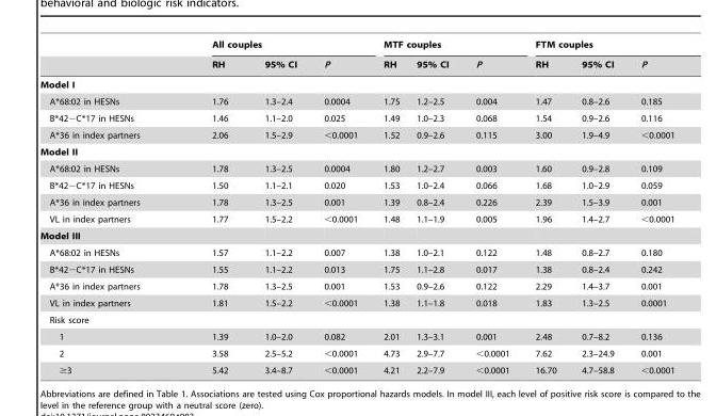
<table><thead><tr><td rowspan="2"></td><td colspan="3">All couples</td><td colspan="3">MTF couples</td><td colspan="3">FTM couples</td></tr><tr><td>RH</td><td>95% CI</td><td>P</td><td>RH</td><td>95% CI</td><td>P</td><td>RH</td><td>95% CI</td><td>P</td></tr></thead><tbody><tr><td colspan="10">Model I</td></tr><tr><td>A*68:02 in HESNs</td><td>1.76</td><td>1.3–2.4</td><td>0.0004</td><td>1.75</td><td>1.2–2.5</td><td>0.004</td><td>1.47</td><td>0.8–2.6</td><td>0.185</td></tr><tr><td>B*42−C*17 in HESNs</td><td>1.46</td><td>1.1–2.0</td><td>0.025</td><td>1.49</td><td>1.0–2.3</td><td>0.068</td><td>1.54</td><td>0.9–2.6</td><td>0.116</td></tr><tr><td>A*36 in index partners</td><td>2.06</td><td>1.5–2.9</td><td>&lt;0.0001</td><td>1.52</td><td>0.9–2.6</td><td>0.115</td><td>3.00</td><td>1.9–4.9</td><td>&lt;0.0001</td></tr><tr><td colspan="10">Model II</td></tr><tr><td>A*68:02 in HESNs</td><td>1.78</td><td>1.3–2.5</td><td>0.0004</td><td>1.80</td><td>1.2–2.7</td><td>0.003</td><td>1.60</td><td>0.9–2.8</td><td>0.109</td></tr><tr><td>B*42−C*17 in HESNs</td><td>1.50</td><td>1.1–2.1</td><td>0.020</td><td>1.53</td><td>1.0–2.4</td><td>0.066</td><td>1.68</td><td>1.0–2.9</td><td>0.059</td></tr><tr><td>A*36 in index partners</td><td>1.78</td><td>1.3–2.5</td><td>0.001</td><td>1.39</td><td>0.8–2.4</td><td>0.226</td><td>2.39</td><td>1.5–3.9</td><td>0.001</td></tr><tr><td>VL in index partners</td><td>1.77</td><td>1.5–2.2</td><td>&lt;0.0001</td><td>1.48</td><td>1.1–1.9</td><td>0.005</td><td>1.96</td><td>1.4–2.7</td><td>&lt;0.0001</td></tr><tr><td colspan="10">Model III</td></tr><tr><td>A*68:02 in HESNs</td><td>1.57</td><td>1.1–2.2</td><td>0.007</td><td>1.38</td><td>1.0–2.1</td><td>0.122</td><td>1.48</td><td>0.8–2.7</td><td>0.180</td></tr><tr><td>B*42−C*17 in HESNs</td><td>1.55</td><td>1.1–2.2</td><td>0.013</td><td>1.75</td><td>1.1–2.8</td><td>0.017</td><td>1.38</td><td>0.8–2.4</td><td>0.242</td></tr><tr><td>A*36 in index partners</td><td>1.78</td><td>1.3–2.5</td><td>0.001</td><td>1.53</td><td>0.9–2.6</td><td>0.122</td><td>2.29</td><td>1.4–3.7</td><td>0.001</td></tr><tr><td>VL in index partners</td><td>1.81</td><td>1.5–2.2</td><td>&lt;0.0001</td><td>1.38</td><td>1.1–1.8</td><td>0.018</td><td>1.83</td><td>1.3–2.5</td><td>0.0001</td></tr><tr><td colspan="10">Risk score</td></tr><tr><td>1</td><td>1.39</td><td>1.0–2.0</td><td>0.082</td><td>2.01</td><td>1.3–3.1</td><td>0.001</td><td>2.48</td><td>0.7–8.2</td><td>0.136</td></tr><tr><td>2</td><td>3.58</td><td>2.5–5.2</td><td>&lt;0.0001</td><td>4.73</td><td>2.9–7.7</td><td>&lt;0.0001</td><td>7.62</td><td>2.3–24.9</td><td>0.001</td></tr><tr><td>≥3</td><td>5.42</td><td>3.4–8.7</td><td>&lt;0.0001</td><td>4.21</td><td>2.2–7.9</td><td>&lt;0.0001</td><td>16.70</td><td>4.7–58.8</td><td>&lt;0.0001</td></tr></tbody></table>